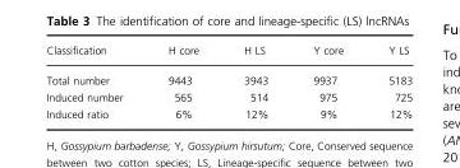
<table><thead><tr><td>Classification</td><td>H core</td><td>H LS</td><td>Y core</td><td>Y LS</td></tr></thead><tbody><tr><td>Total number</td><td>9443</td><td>3943</td><td>9937</td><td>5183</td></tr><tr><td>Induced number</td><td>565</td><td>514</td><td>975</td><td>725</td></tr><tr><td>Induced ratio</td><td>6%</td><td>12%</td><td>9%</td><td>12%</td></tr></tbody></table>